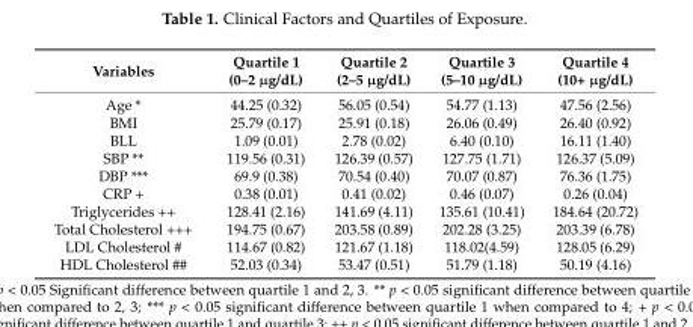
<table><thead><tr><td>Variables</td><td>Quartile 1 (0–2 µg/dL)</td><td>Quartile 2 (2–5 µg/dL)</td><td>Quartile 3 (5–10 µg/dL)</td><td>Quartile 4 (10+ µg/dL)</td></tr></thead><tbody><tr><td>Age *</td><td>44.25 (0.32)</td><td>56.05 (0.54)</td><td>54.77 (1.13)</td><td>47.56 (2.56)</td></tr><tr><td>BMI</td><td>25.79 (0.17)</td><td>25.91 (0.18)</td><td>26.06 (0.49)</td><td>26.40 (0.92)</td></tr><tr><td>BLL</td><td>1.09 (0.01)</td><td>2.78 (0.02)</td><td>6.40 (0.10)</td><td>16.11 (1.40)</td></tr><tr><td>SBP **</td><td>119.56 (0.31)</td><td>126.39 (0.57)</td><td>127.75 (1.71)</td><td>126.37 (5.09)</td></tr><tr><td>DBP ***</td><td>69.9 (0.38)</td><td>70.54 (0.40)</td><td>70.07 (0.87)</td><td>76.36 (1.75)</td></tr><tr><td>CRP +</td><td>0.38 (0.01)</td><td>0.41 (0.02)</td><td>0.46 (0.07)</td><td>0.26 (0.04)</td></tr><tr><td>Triglycerides ++</td><td>128.41 (2.16)</td><td>141.69 (4.11)</td><td>135.61 (10.41)</td><td>184.64 (20.72)</td></tr><tr><td>Total Cholesterol +++</td><td>194.75 (0.67)</td><td>203.58 (0.89)</td><td>202.28 (3.25)</td><td>203.39 (6.78)</td></tr><tr><td>LDL Cholesterol #</td><td>114.67 (0.82)</td><td>121.67 (1.18)</td><td>118.02(4.59)</td><td>128.05 (6.29)</td></tr><tr><td>HDL Cholesterol ##</td><td>52.03 (0.34)</td><td>53.47 (0.51)</td><td>51.79 (1.18)</td><td>50.19 (4.16)</td></tr></tbody></table>